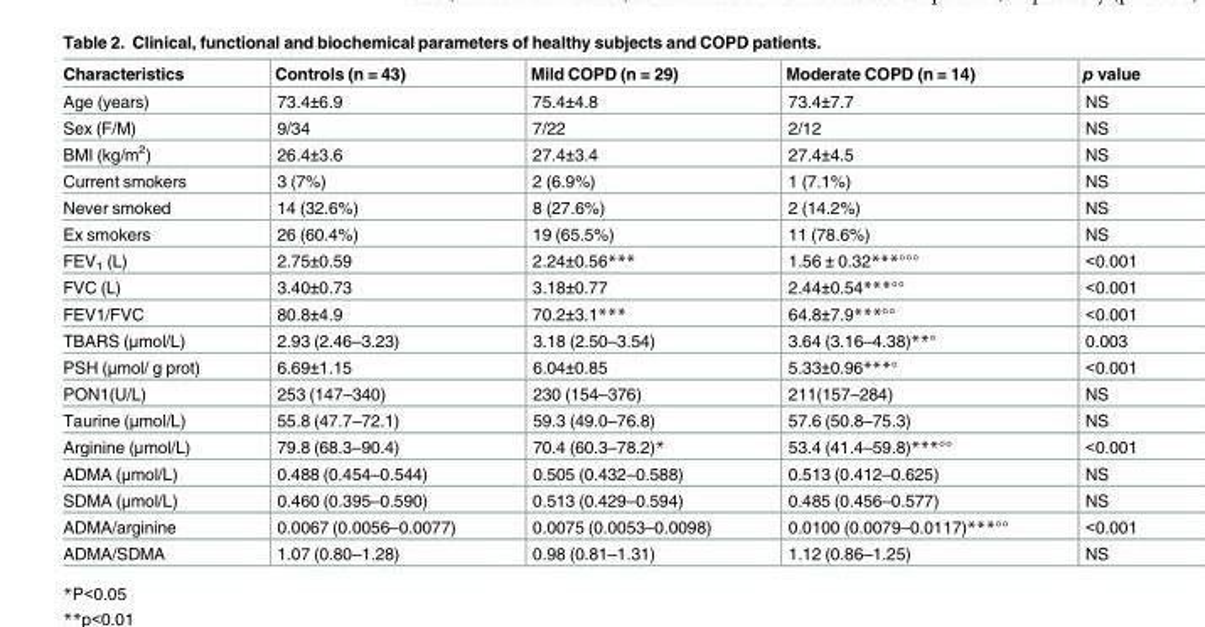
<table><thead><tr><td>Characteristics</td><td>Controls (n = 43)</td><td>Mild COPD (n = 29)</td><td>Moderate COPD (n = 14)</td><td>p value</td></tr></thead><tbody><tr><td>Age (years)</td><td>73.4±6.9</td><td>75.4±4.8</td><td>73.4±7.7</td><td>NS</td></tr><tr><td>Sex (F/M)</td><td>9/34</td><td>7/22</td><td>2/12</td><td>NS</td></tr><tr><td>BMI (kg/m<sup>2</sup>)</td><td>26.4±3.6</td><td>27.4±3.4</td><td>27.4±4.5</td><td>NS</td></tr><tr><td>Current smokers</td><td>3 (7%)</td><td>2 (6.9%)</td><td>1 (7.1%)</td><td>NS</td></tr><tr><td>Never smoked</td><td>14 (32.6%)</td><td>8 (27.6%)</td><td>2 (14.2%)</td><td>NS</td></tr><tr><td>Ex smokers</td><td>26 (60.4%)</td><td>19 (65.5%)</td><td>11 (78.6%)</td><td>NS</td></tr><tr><td>FEV<sub>1</sub> (L)</td><td>2.75±0.59</td><td>2.24±0.56***</td><td>1.56 ± 0.32***°°°</td><td>&lt;0.001</td></tr><tr><td>FVC (L)</td><td>3.40±0.73</td><td>3.18±0.77</td><td>2.44±0.54***°°</td><td>&lt;0.001</td></tr><tr><td>FEV1/FVC</td><td>80.8±4.9</td><td>70.2±3.1***</td><td>64.8±7.9***°°</td><td>&lt;0.001</td></tr><tr><td>TBARS (μmol/L)</td><td>2.93 (2.46–3.23)</td><td>3.18 (2.50–3.54)</td><td>3.64 (3.16–4.38)**°</td><td>0.003</td></tr><tr><td>PSH (μmol/ g prot)</td><td>6.69±1.15</td><td>6.04±0.85</td><td>5.33±0.96***°</td><td>&lt;0.001</td></tr><tr><td>PON1(U/L)</td><td>253 (147–340)</td><td>230 (154–376)</td><td>211(157–284)</td><td>NS</td></tr><tr><td>Taurine (μmol/L)</td><td>55.8 (47.7–72.1)</td><td>59.3 (49.0–76.8)</td><td>57.6 (50.8–75.3)</td><td>NS</td></tr><tr><td>Arginine (μmol/L)</td><td>79.8 (68.3–90.4)</td><td>70.4 (60.3–78.2)*</td><td>53.4 (41.4–59.8)***°°</td><td>&lt;0.001</td></tr><tr><td>ADMA (μmol/L)</td><td>0.488 (0.454–0.544)</td><td>0.505 (0.432–0.588)</td><td>0.513 (0.412–0.625)</td><td>NS</td></tr><tr><td>SDMA (μmol/L)</td><td>0.460 (0.395–0.590)</td><td>0.513 (0.429–0.594)</td><td>0.485 (0.456–0.577)</td><td>NS</td></tr><tr><td>ADMA/arginine</td><td>0.0067 (0.0056–0.0077)</td><td>0.0075 (0.0053–0.0098)</td><td>0.0100 (0.0079–0.0117)***°°</td><td>&lt;0.001</td></tr><tr><td>ADMA/SDMA</td><td>1.07 (0.80–1.28)</td><td>0.98 (0.81–1.31)</td><td>1.12 (0.86–1.25)</td><td>NS</td></tr></tbody></table>